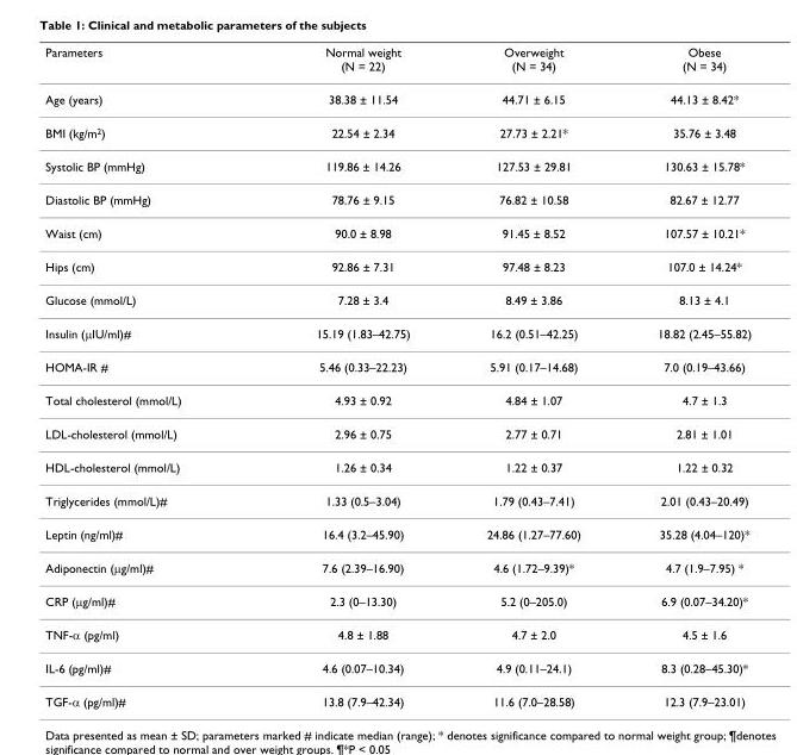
<table><thead><tr><td>Parameters</td><td>Normal weight (N = 22)</td><td>Overweight (N = 34)</td><td>Obese (N = 34)</td></tr></thead><tbody><tr><td>Age (years)</td><td>38.38 ± 11.54</td><td>44.71 ± 6.15</td><td>44.13 ± 8.42*</td></tr><tr><td>BMI (kg/m<sup>2</sup>)</td><td>22.54 ± 2.34</td><td>27.73 ± 2.21*</td><td>35.76 ± 3.48</td></tr><tr><td>Systolic BP (mmHg)</td><td>119.86 ± 14.26</td><td>127.53 ± 29.81</td><td>130.63 ± 15.78*</td></tr><tr><td>Diastolic BP (mmHg)</td><td>78.76 ± 9.15</td><td>76.82 ± 10.58</td><td>82.67 ± 12.77</td></tr><tr><td>Waist (cm)</td><td>90.0 ± 8.98</td><td>91.45 ± 8.52</td><td>107.57 ± 10.21*</td></tr><tr><td>Hips (cm)</td><td>92.86 ± 7.31</td><td>97.48 ± 8.23</td><td>107.0 ± 14.24*</td></tr><tr><td>Glucose (mmol/L)</td><td>7.28 ± 3.4</td><td>8.49 ± 3.86</td><td>8.13 ± 4.1</td></tr><tr><td>Insulin (μIU/ml)#</td><td>15.19 (1.83–42.75)</td><td>16.2 (0.51–42.25)</td><td>18.82 (2.45–55.82)</td></tr><tr><td>HOMA-IR #</td><td>5.46 (0.33–22.23)</td><td>5.91 (0.17–14.68)</td><td>7.0 (0.19–43.66)</td></tr><tr><td>Total cholesterol (mmol/L)</td><td>4.93 ± 0.92</td><td>4.84 ± 1.07</td><td>4.7 ± 1.3</td></tr><tr><td>LDL-cholesterol (mmol/L)</td><td>2.96 ± 0.75</td><td>2.77 ± 0.71</td><td>2.81 ± 1.01</td></tr><tr><td>HDL-cholesterol (mmol/L)</td><td>1.26 ± 0.34</td><td>1.22 ± 0.37</td><td>1.22 ± 0.32</td></tr><tr><td>Triglycerides (mmol/L)#</td><td>1.33 (0.5–3.04)</td><td>1.79 (0.43–7.41)</td><td>2.01 (0.43–20.49)</td></tr><tr><td>Leptin (ng/ml)#</td><td>16.4 (3.2–45.90)</td><td>24.86 (1.27–77.60)</td><td>35.28 (4.04–120)*</td></tr><tr><td>Adiponectin (μg/ml)#</td><td>7.6 (2.39–16.90)</td><td>4.6 (1.72–9.39)*</td><td>4.7 (1.9–7.95) *</td></tr><tr><td>CRP (μg/ml)#</td><td>2.3 (0–13.30)</td><td>5.2 (0–205.0)</td><td>6.9 (0.07–34.20)*</td></tr><tr><td>TNF-α (pg/ml)</td><td>4.8 ± 1.88</td><td>4.7 ± 2.0</td><td>4.5 ± 1.6</td></tr><tr><td>IL-6 (pg/ml)#</td><td>4.6 (0.07–10.34)</td><td>4.9 (0.11–24.1)</td><td>8.3 (0.28–45.30)*</td></tr><tr><td>TGF-α (pg/ml)#</td><td>13.8 (7.9–42.34)</td><td>11.6 (7.0–28.58)</td><td>12.3 (7.9–23.01)</td></tr></tbody></table>